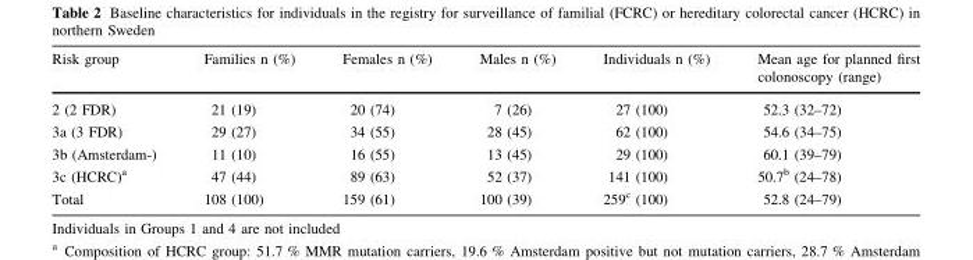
<table><thead><tr><td>Risk group</td><td>Families n (%)</td><td>Females n (%)</td><td>Males n (%)</td><td>Individuals n (%)</td><td>Mean age for planned first colonoscopy (range)</td></tr></thead><tbody><tr><td>2 (2 FDR)</td><td>21 (19)</td><td>20 (74)</td><td>7 (26)</td><td>27 (100)</td><td>52.3 (32–72)</td></tr><tr><td>3a (3 FDR)</td><td>29 (27)</td><td>34 (55)</td><td>28 (45)</td><td>62 (100)</td><td>54.6 (34–75)</td></tr><tr><td>3b (Amsterdam-)</td><td>11 (10)</td><td>16 (55)</td><td>13 (45)</td><td>29 (100)</td><td>60.1 (39–79)</td></tr><tr><td>3c (HCRC)<sup>a</sup></td><td>47 (44)</td><td>89 (63)</td><td>52 (37)</td><td>141 (100)</td><td>50.7<sup>b</sup> (24–78)</td></tr><tr><td>Total</td><td>108 (100)</td><td>159 (61)</td><td>100 (39)</td><td>259<sup>c</sup> (100)</td><td>52.8 (24–79)</td></tr></tbody></table>